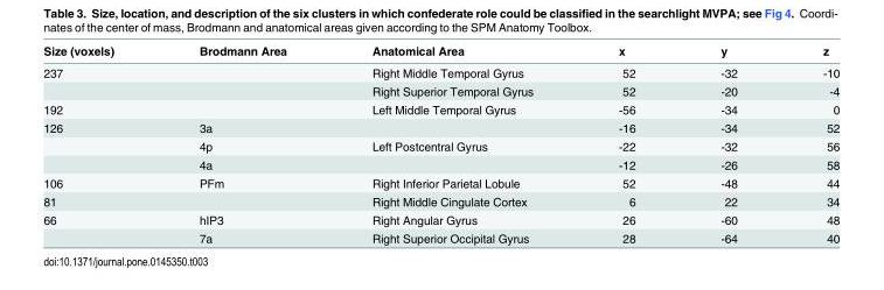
<table><thead><tr><td>Size (voxels)</td><td>Brodmann Area</td><td>Anatomical Area</td><td>x</td><td>y</td><td>z</td></tr></thead><tbody><tr><td rowspan="2">237</td><td></td><td>Right Middle Temporal Gyrus</td><td>52</td><td>-32</td><td>-10</td></tr><tr><td></td><td>Right Superior Temporal Gyrus</td><td>52</td><td>-20</td><td>-4</td></tr><tr><td>192</td><td></td><td>Left Middle Temporal Gyrus</td><td>-56</td><td>-34</td><td>0</td></tr><tr><td rowspan="3">126</td><td>3a</td><td></td><td>-16</td><td>-34</td><td>52</td></tr><tr><td>4p</td><td>Left Postcentral Gyrus</td><td>-22</td><td>-32</td><td>56</td></tr><tr><td>4a</td><td></td><td>-12</td><td>-26</td><td>58</td></tr><tr><td>106</td><td>PFm</td><td>Right Inferior Parietal Lobule</td><td>52</td><td>-48</td><td>44</td></tr><tr><td>81</td><td></td><td>Right Middle Cingulate Cortex</td><td>6</td><td>22</td><td>34</td></tr><tr><td rowspan="2">66</td><td>hIP3</td><td>Right Angular Gyrus</td><td>26</td><td>-60</td><td>48</td></tr><tr><td>7a</td><td>Right Superior Occipital Gyrus</td><td>28</td><td>-64</td><td>40</td></tr></tbody></table>